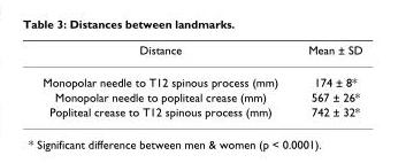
<table><thead><tr><td>Distance</td><td>Mean ± SD</td></tr></thead><tbody><tr><td>Monopolar needle to T12 spinous process (mm)</td><td>174 ± 8*</td></tr><tr><td>Monopolar needle to popliteal crease (mm)</td><td>567 ± 26*</td></tr><tr><td>Popliteal crease to T12 spinous process (mm)</td><td>742 ± 32*</td></tr></tbody></table>